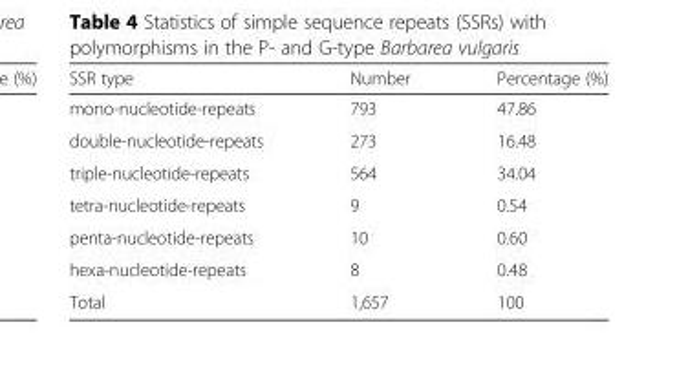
<table><thead><tr><td>SSR type</td><td>Number</td><td>Percentage (%)</td></tr></thead><tbody><tr><td>mono-nucleotide-repeats</td><td>793</td><td>47.86</td></tr><tr><td>double-nucleotide-repeats</td><td>273</td><td>16.48</td></tr><tr><td>triple-nucleotide-repeats</td><td>564</td><td>34.04</td></tr><tr><td>tetra-nucleotide-repeats</td><td>9</td><td>0.54</td></tr><tr><td>penta-nucleotide-repeats</td><td>10</td><td>0.60</td></tr><tr><td>hexa-nucleotide-repeats</td><td>8</td><td>0.48</td></tr><tr><td>Total</td><td>1,657</td><td>100</td></tr></tbody></table>